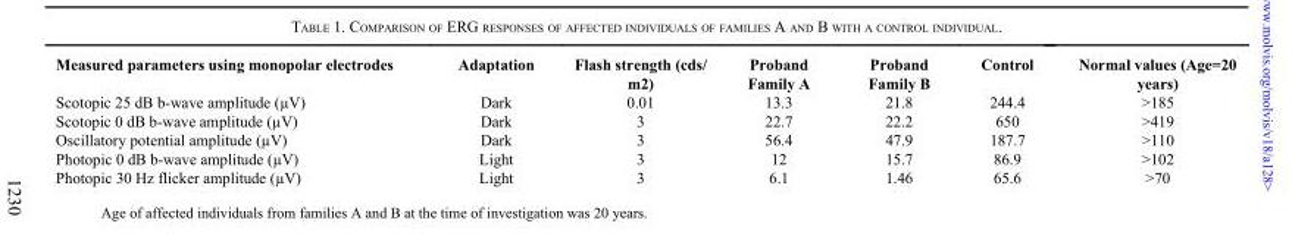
<table><thead><tr><td>Measured parameters using monopolar electrodes</td><td>Adaptation</td><td>Flash strength (cds/ m2)</td><td>Proband Family A</td><td>Proband Family B</td><td>Control</td><td>Normal values (Age=20 years)</td></tr></thead><tbody><tr><td>Scotopic 25 dB b-wave amplitude (µV)</td><td>Dark</td><td>0.01</td><td>13.3</td><td>21.8</td><td>244.4</td><td>&gt;185</td></tr><tr><td>Scotopic 0 dB b-wave amplitude (µV)</td><td>Dark</td><td>3</td><td>22.7</td><td>22.2</td><td>650</td><td>&gt;419</td></tr><tr><td>Oscillatory potential amplitude (µV)</td><td>Dark</td><td>3</td><td>56.4</td><td>47.9</td><td>187.7</td><td>&gt;110</td></tr><tr><td>Photopic 0 dB b-wave amplitude (µV)</td><td>Light</td><td>3</td><td>12</td><td>15.7</td><td>86.9</td><td>&gt;102</td></tr><tr><td>Photopic 30 Hz flicker amplitude (µV)</td><td>Light</td><td>3</td><td>6.1</td><td>1.46</td><td>65.6</td><td>&gt;70</td></tr></tbody></table>